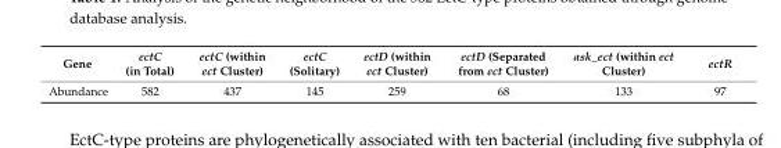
<table><thead><tr><td>Gene</td><td>ectC (in Total)</td><td>ectC (within ect Cluster)</td><td>ectC (Solitary)</td><td>ectD (within ect Cluster)</td><td>ectD (Separated from ect Cluster)</td><td>ask_ect (within ect Cluster)</td><td>ectR</td></tr></thead><tbody><tr><td>Abundance</td><td>582</td><td>437</td><td>145</td><td>259</td><td>68</td><td>133</td><td>97</td></tr></tbody></table>